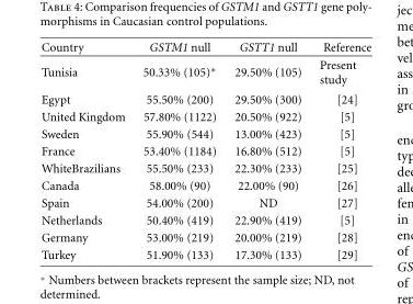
<table><tbody><tr><td>Country</td><td>GSTM1 null</td><td>GSTT1 null</td><td>Reference</td></tr><tr><td>Tunisia</td><td>50.33% (105)∗</td><td>29.50% (105)</td><td>Present study</td></tr><tr><td>Egypt</td><td>55.50% (200)</td><td>29.50% (300)</td><td>[24]</td></tr><tr><td>United Kingdom</td><td>57.80% (1122)</td><td>20.50% (922)</td><td>[5]</td></tr><tr><td>Sweden</td><td>55.90% (544)</td><td>13.00% (423)</td><td>[5]</td></tr><tr><td>France</td><td>53.40% (1184)</td><td>16.80% (512)</td><td>[5]</td></tr><tr><td>WhiteBrazilians</td><td>55.50% (233)</td><td>22.30% (233)</td><td>[25]</td></tr><tr><td>Canada</td><td>58.00% (90)</td><td>22.00% (90)</td><td>[26]</td></tr><tr><td>Spain</td><td>54.00% (200)</td><td>ND</td><td>[27]</td></tr><tr><td>Netherlands</td><td>50.40% (419)</td><td>22.90% (419)</td><td>[5]</td></tr><tr><td>Germany</td><td>53.00% (219)</td><td>20.00% (219)</td><td>[28]</td></tr><tr><td>Turkey</td><td>51.90% (133)</td><td>17.30% (133)</td><td>[29]</td></tr></tbody></table>